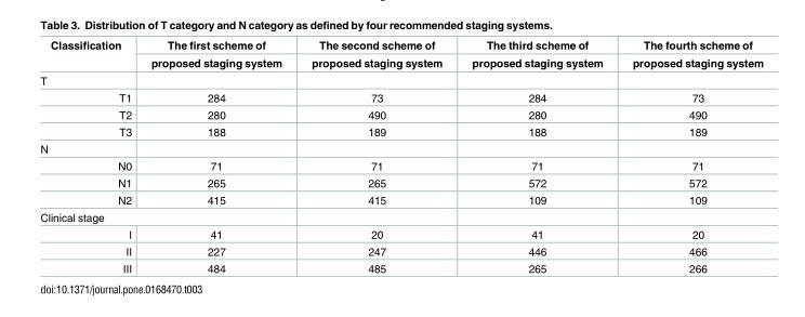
<table><thead><tr><td rowspan="2">Classification</td><td rowspan="2">The first scheme of proposed staging system</td><td rowspan="2">The second scheme of proposed staging system</td><td rowspan="2">The third scheme of proposed staging system</td><td rowspan="2">The fourth scheme of proposed staging system</td></tr><tr></tr></thead><tbody><tr><td colspan="5">T</td></tr><tr><td>T1</td><td>284</td><td>73</td><td>284</td><td>73</td></tr><tr><td>T2</td><td>280</td><td>490</td><td>280</td><td>490</td></tr><tr><td>T3</td><td>188</td><td>189</td><td>188</td><td>189</td></tr><tr><td colspan="5">N</td></tr><tr><td>N0</td><td>71</td><td>71</td><td>71</td><td>71</td></tr><tr><td>N1</td><td>265</td><td>265</td><td>572</td><td>572</td></tr><tr><td>N2</td><td>415</td><td>415</td><td>109</td><td>109</td></tr><tr><td colspan="5">Clinical stage</td></tr><tr><td>Ⅰ</td><td>41</td><td>20</td><td>41</td><td>20</td></tr><tr><td>Ⅱ</td><td>227</td><td>247</td><td>446</td><td>466</td></tr><tr><td>Ⅲ</td><td>484</td><td>485</td><td>265</td><td>266</td></tr></tbody></table>